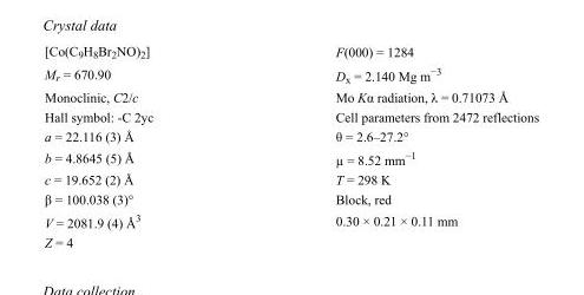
<table><tbody><tr><td>[Co(C<sub>9</sub>H<sub>8</sub>Br<sub>2</sub>NO)<sub>2</sub>]</td><td>F(000) = 1284</td></tr><tr><td>M<sub>r</sub> = 670.90</td><td>D<sub>x</sub> = 2.140 Mg m<sup>−3</sup></td></tr><tr><td>Monoclinic, C2/c</td><td>Mo Kα radiation, λ = 0.71073 Å</td></tr><tr><td>Hall symbol: -C 2yc</td><td>Cell parameters from 2472 reflections</td></tr><tr><td>a = 22.116 (3) Å</td><td>θ = 2.6–27.2°</td></tr><tr><td>b = 4.8645 (5) Å</td><td>µ = 8.52 mm<sup>−1</sup></td></tr><tr><td>c = 19.652 (2) Å</td><td>T = 298 K</td></tr><tr><td>β = 100.038 (3)°</td><td>Block, red</td></tr><tr><td>V = 2081.9 (4) Å<sup>3</sup></td><td>0.30 × 0.21 × 0.11 mm</td></tr><tr><td>Z = 4</td><td></td></tr></tbody></table>